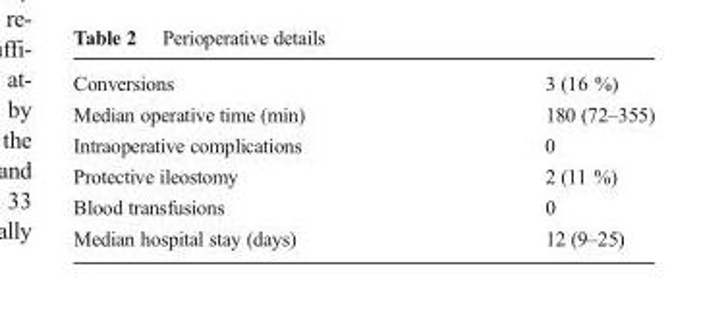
<table><tbody><tr><td>Conversions</td><td>3 (16 %)</td></tr><tr><td>Median operative time (min)</td><td>180 (72–355)</td></tr><tr><td>Intraoperative complications</td><td>0</td></tr><tr><td>Protective ileostomy</td><td>2 (11 %)</td></tr><tr><td>Blood transfusions</td><td>0</td></tr><tr><td>Median hospital stay (days)</td><td>12 (9–25)</td></tr></tbody></table>